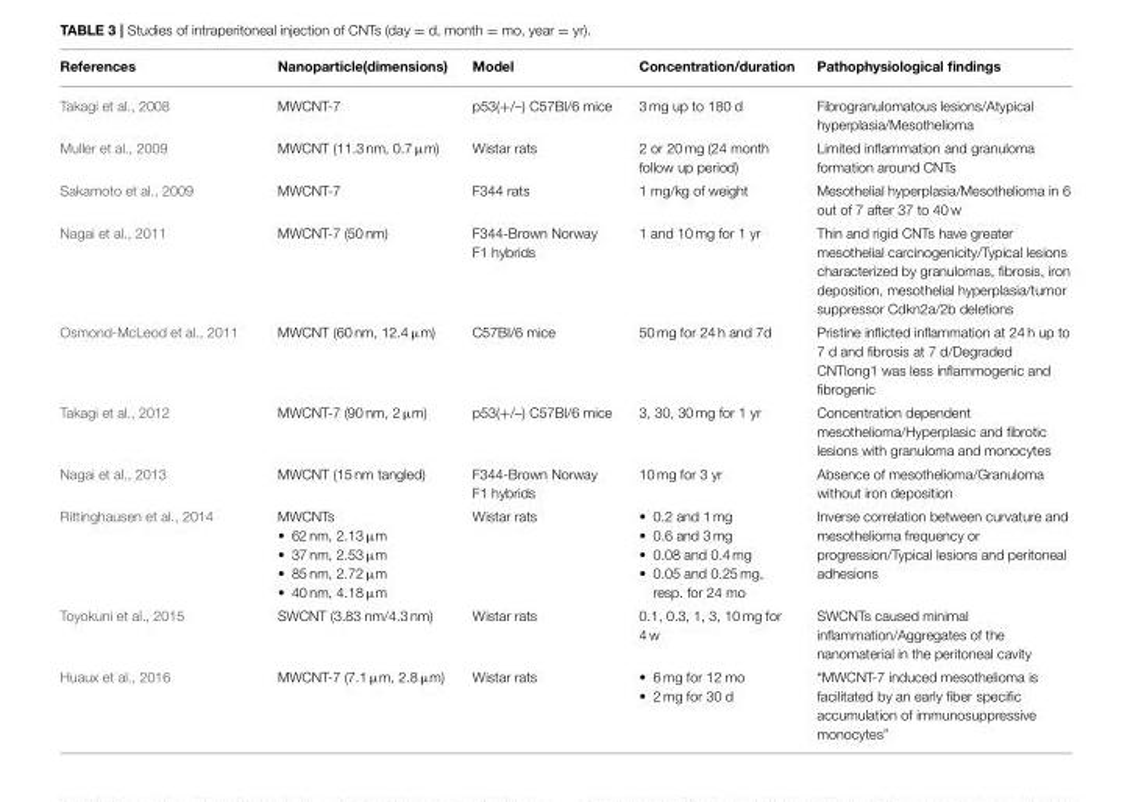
<table><thead><tr><td>References</td><td>Nanoparticle(dimensions)</td><td>Model</td><td>Concentration/duration</td><td>Pathophysiological findings</td></tr></thead><tbody><tr><td>Takagi et al., 2008</td><td>MWCNT-7</td><td>p53(+/–) C57BI/6 mice</td><td>3 mg up to 180 d</td><td>Fibrogranulomatous lesions/Atypical hyperplasia/Mesothelioma</td></tr><tr><td>Muller et al., 2009</td><td>MWCNT (11.3 nm, 0.7 µm)</td><td>Wistar rats</td><td>2 or 20 mg (24 month follow up period)</td><td>Limited inflammation and granuloma formation around CNTs</td></tr><tr><td>Sakamoto et al., 2009</td><td>MWCNT-7</td><td>F344 rats</td><td>1 mg/kg of weight</td><td>Mesothelial hyperplasia/Mesothelioma in 6 out of 7 after 37 to 40 w</td></tr><tr><td>Nagai et al., 2011</td><td>MWCNT-7 (50 nm)</td><td>F344-Brown Norway F1 hybrids</td><td>1 and 10 mg for 1 yr</td><td>Thin and rigid CNTs have greater mesothelial carcinogenicity/Typical lesions characterized by granulomas, fibrosis, iron deposition, mesothelial hyperplasia/tumor suppressor Cdkn2a/2b deletions</td></tr><tr><td>Osmond-McLeod et al., 2011</td><td>MWCNT (60 nm, 12.4 µm)</td><td>C57BI/6 mice</td><td>50 mg for 24 h and 7d</td><td>Pristine inflicted inflammation at 24 h up to 7 d and fibrosis at 7 d/Degraded CNTlong1 was less inflammogenic and fibrogenic</td></tr><tr><td>Takagi et al., 2012</td><td>MWCNT-7 (90 nm, 2 µm)</td><td>p53(+/–) C57BI/6 mice</td><td>3, 30, 30 mg for 1 yr</td><td>Concentration dependent mesothelioma/Hyperplasic and fibrotic lesions with granuloma and monocytes</td></tr><tr><td>Nagai et al., 2013</td><td>MWCNT (15 nm tangled)</td><td>F344-Brown Norway F1 hybrids</td><td>10 mg for 3 yr</td><td>Absence of mesothelioma/Granuloma without iron deposition</td></tr><tr><td>Rittinghausen et al., 2014</td><td>MWCNTs • 62 nm, 2.13 µm • 37 nm, 2.53 µm • 85 nm, 2.72 µm • 40 nm, 4.18 µm</td><td>Wistar rats</td><td>• 0.2 and 1 mg • 0.6 and 3 mg • 0.08 and 0.4 mg • 0.05 and 0.25 mg, resp. for 24 mo</td><td>Inverse correlation between curvature and mesothelioma frequency or progression/Typical lesions and peritoneal adhesions</td></tr><tr><td>Toyokuni et al., 2015</td><td>SWCNT (3.83 nm/4.3 nm)</td><td>Wistar rats</td><td>0.1, 0.3, 1, 3, 10 mg for 4 w</td><td>SWCNTs caused minimal inflammation/Aggregates of the nanomaterial in the peritoneal cavity</td></tr><tr><td>Huaux et al., 2016</td><td>MWCNT-7 (7.1 µm, 2.8 µm)</td><td>Wistar rats</td><td>• 6 mg for 12 mo • 2 mg for 30 d</td><td>“MWCNT-7 induced mesothelioma is facilitated by an early fiber specific accumulation of immunosuppressive monocytes”</td></tr></tbody></table>